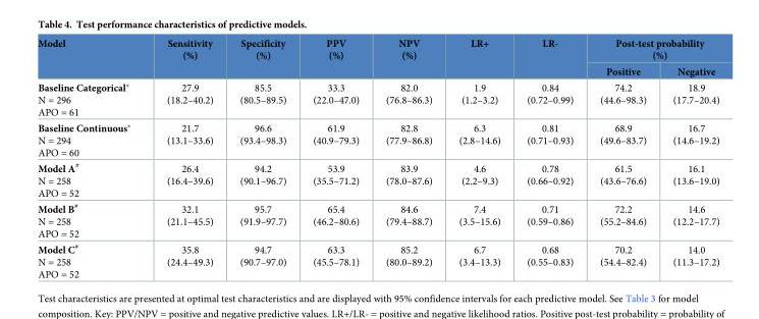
<table><thead><tr><td rowspan="2">Model</td><td rowspan="2">Sensitivity (%)</td><td rowspan="2">Specificity (%)</td><td rowspan="2">PPV (%)</td><td rowspan="2">NPV (%)</td><td rowspan="2">LR+</td><td rowspan="2">LR-</td><td colspan="2">Post-test probability (%)</td></tr><tr><td>Positive</td><td>Negative</td></tr></thead><tbody><tr><td>Baseline Categorical* N = 296 APO = 61</td><td>27.9 (18.2–40.2)</td><td>85.5 (80.5–89.5)</td><td>33.3 (22.0–47.0)</td><td>82.0 (76.8–86.3)</td><td>1.9 (1.2–3.2)</td><td>0.84 (0.72–0.99)</td><td>74.2 (44.6–98.3)</td><td>18.9 (17.7–20.4)</td></tr><tr><td>Baseline Continuous* N = 294 APO = 60</td><td>21.7 (13.1–33.6)</td><td>96.6 (93.4–98.3)</td><td>61.9 (40.9–79.3)</td><td>82.8 (77.9–86.8)</td><td>6.3 (2.8–14.6)</td><td>0.81 (0.71–0.93)</td><td>68.9 (49.6–83.7)</td><td>16.7 (14.6–19.2)</td></tr><tr><td>Model A<sup>#</sup> N = 258 APO = 52</td><td>26.4 (16.4–39.6)</td><td>94.2 (90.1–96.7)</td><td>53.9 (35.5–71.2)</td><td>83.9 (78.0–87.6)</td><td>4.6 (2.2–9.3)</td><td>0.78 (0.66–0.92)</td><td>61.5 (43.6–76.6)</td><td>16.1 (13.6–19.0)</td></tr><tr><td>Model B<sup>#</sup> N = 258 APO = 52</td><td>32.1 (21.1–45.5)</td><td>95.7 (91.9–97.7)</td><td>65.4 (46.2–80.6)</td><td>84.6 (79.4–88.7)</td><td>7.4 (3.5–15.6)</td><td>0.71 (0.59–0.86)</td><td>72.2 (55.2–84.6)</td><td>14.6 (12.2–17.7)</td></tr><tr><td>Model C<sup>#</sup> N = 258 APO = 52</td><td>35.8 (24.4–49.3)</td><td>94.7 (90.7–97.0)</td><td>63.3 (45.5–78.1)</td><td>85.2 (80.0–89.2)</td><td>6.7 (3.4–13.3)</td><td>0.68 (0.55–0.83)</td><td>70.2 (54.4–82.4)</td><td>14.0 (11.3–17.2)</td></tr></tbody></table>